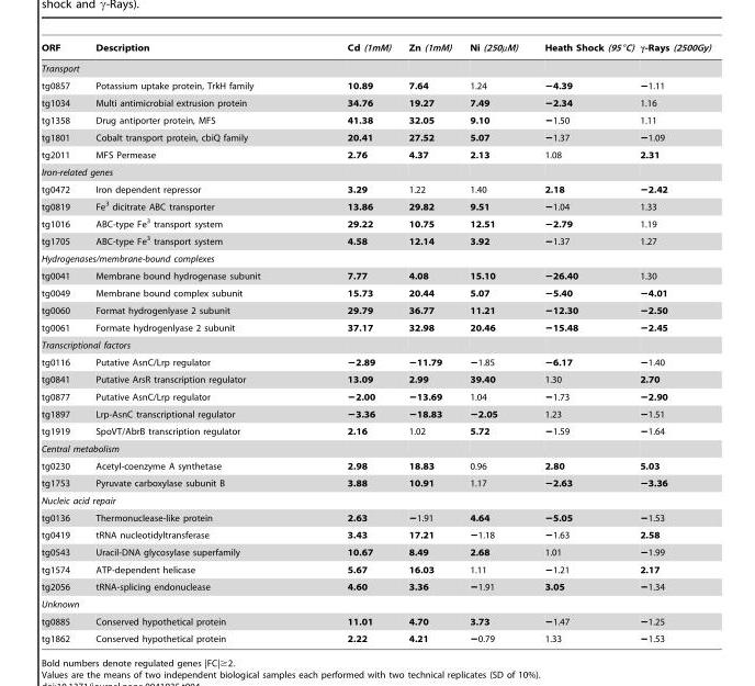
<table><thead><tr><td>ORF</td><td>Description</td><td>Cd (1mM)</td><td>Zn (1mM)</td><td>Ni (250µM)</td><td>Heath Shock (95°C)</td><td>γ-Rays (2500Gy)</td></tr></thead><tbody><tr><td colspan="7">Transport</td></tr><tr><td>tg0857</td><td>Potassium uptake protein, TrkH family</td><td>10.89</td><td>7.64</td><td>1.24</td><td>−4.39</td><td>−1.11</td></tr><tr><td>tg1034</td><td>Multi antimicrobial extrusion protein</td><td>34.76</td><td>19.27</td><td>7.49</td><td>−2.34</td><td>1.16</td></tr><tr><td>tg1358</td><td>Drug antiporter protein, MFS</td><td>41.38</td><td>32.05</td><td>9.10</td><td>−1.50</td><td>1.11</td></tr><tr><td>tg1801</td><td>Cobalt transport protein, cbiQ family</td><td>20.41</td><td>27.52</td><td>5.07</td><td>−1.37</td><td>−1.09</td></tr><tr><td>tg2011</td><td>MFS Permease</td><td>2.76</td><td>4.37</td><td>2.13</td><td>1.08</td><td>2.31</td></tr><tr><td colspan="7">Iron-related genes</td></tr><tr><td>tg0472</td><td>Iron dependent repressor</td><td>3.29</td><td>1.22</td><td>1.40</td><td>2.18</td><td>−2.42</td></tr><tr><td>tg0819</td><td>Fe<sup>3</sup> dicitrate ABC transporter</td><td>13.86</td><td>29.82</td><td>9.51</td><td>−1.04</td><td>1.33</td></tr><tr><td>tg1016</td><td>ABC-type Fe<sup>3</sup> transport system</td><td>29.22</td><td>10.75</td><td>12.51</td><td>−2.79</td><td>1.19</td></tr><tr><td>tg1705</td><td>ABC-type Fe<sup>3</sup> transport system</td><td>4.58</td><td>12.14</td><td>3.92</td><td>−1.37</td><td>1.27</td></tr><tr><td colspan="7">Hydrogenases/membrane-bound complexes</td></tr><tr><td>tg0041</td><td>Membrane bound hydrogenase subunit</td><td>7.77</td><td>4.08</td><td>15.10</td><td>−26.40</td><td>1.30</td></tr><tr><td>tg0049</td><td>Membrane bound complex subunit</td><td>15.73</td><td>20.44</td><td>5.07</td><td>−5.40</td><td>−4.01</td></tr><tr><td>tg0060</td><td>Format hydrogenlyase 2 subunit</td><td>29.79</td><td>36.77</td><td>11.21</td><td>−12.30</td><td>−2.50</td></tr><tr><td>tg0061</td><td>Formate hydrogenlyase 2 subunit</td><td>37.17</td><td>32.98</td><td>20.46</td><td>−15.48</td><td>−2.45</td></tr><tr><td colspan="7">Transcriptional factors</td></tr><tr><td>tg0116</td><td>Putative AsnC/Lrp regulator</td><td>−2.89</td><td>−11.79</td><td>−1.85</td><td>−6.17</td><td>−1.40</td></tr><tr><td>tg0841</td><td>Putative ArsR transcription regulator</td><td>13.09</td><td>2.99</td><td>39.40</td><td>1.30</td><td>2.70</td></tr><tr><td>tg0877</td><td>Putative AsnC/Lrp regulator</td><td>−2.00</td><td>−13.69</td><td>1.04</td><td>−1.73</td><td>−2.90</td></tr><tr><td>tg1897</td><td>Lrp-AsnC transcriptional regulator</td><td>−3.36</td><td>−18.83</td><td>−2.05</td><td>1.23</td><td>−1.51</td></tr><tr><td>tg1919</td><td>SpoVT/AbrB transcription regulator</td><td>2.16</td><td>1.02</td><td>5.72</td><td>−1.59</td><td>−1.64</td></tr><tr><td colspan="7">Central metabolism</td></tr><tr><td>tg0230</td><td>Acetyl-coenzyme A synthetase</td><td>2.98</td><td>18.83</td><td>0.96</td><td>2.80</td><td>5.03</td></tr><tr><td>tg1753</td><td>Pyruvate carboxylase subunit B</td><td>3.88</td><td>10.91</td><td>1.17</td><td>−2.63</td><td>−3.36</td></tr><tr><td colspan="7">Nucleic acid repair</td></tr><tr><td>tg0136</td><td>Thermonuclease-like protein</td><td>2.63</td><td>−1.91</td><td>4.64</td><td>−5.05</td><td>−1.53</td></tr><tr><td>tg0419</td><td>tRNA nucleotidyltransferase</td><td>3.43</td><td>17.21</td><td>−1.18</td><td>−1.63</td><td>2.58</td></tr><tr><td>tg0543</td><td>Uracil-DNA glycosylase superfamily</td><td>10.67</td><td>8.49</td><td>2.68</td><td>1.01</td><td>−1.99</td></tr><tr><td>tg1574</td><td>ATP-dependent helicase</td><td>5.67</td><td>16.03</td><td>1.11</td><td>−1.21</td><td>2.17</td></tr><tr><td>tg2056</td><td>tRNA-splicing endonuclease</td><td>4.60</td><td>3.36</td><td>−1.91</td><td>3.05</td><td>−1.34</td></tr><tr><td colspan="7">Unknown</td></tr><tr><td>tg0885</td><td>Conserved hypothetical protein</td><td>11.01</td><td>4.70</td><td>3.73</td><td>−1.47</td><td>−1.25</td></tr><tr><td>tg1862</td><td>Conserved hypothetical protein</td><td>2.22</td><td>4.21</td><td>−0.79</td><td>1.33</td><td>−1.53</td></tr></tbody></table>